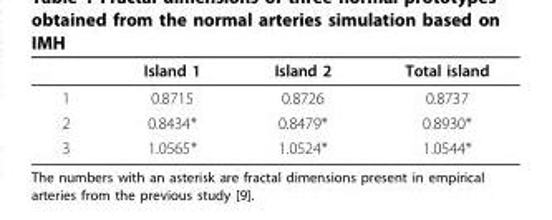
<table><thead><tr><td></td><td>Island 1</td><td>Island 2</td><td>Total island</td></tr></thead><tbody><tr><td>1</td><td>0.8715</td><td>0.8726</td><td>0.8737</td></tr><tr><td>2</td><td>0.8434*</td><td>0.8479*</td><td>0.8930*</td></tr><tr><td>3</td><td>1.0565*</td><td>1.0524*</td><td>1.0544*</td></tr></tbody></table>